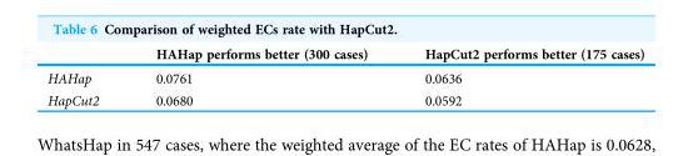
<table><thead><tr><td></td><td>HAHap performs better (300 cases)</td><td>HapCut2 performs better (175 cases)</td></tr></thead><tbody><tr><td>HAHap</td><td>0.0761</td><td>0.0636</td></tr><tr><td>HapCut2</td><td>0.0680</td><td>0.0592</td></tr></tbody></table>